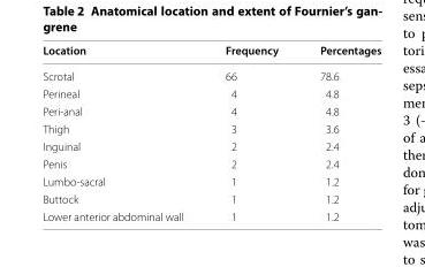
<table><thead><tr><td>Location</td><td>Frequency</td><td>Percentages</td></tr></thead><tbody><tr><td>Scrotal</td><td>66</td><td>78.6</td></tr><tr><td>Perineal</td><td>4</td><td>4.8</td></tr><tr><td>Peri-anal</td><td>4</td><td>4.8</td></tr><tr><td>Thigh</td><td>3</td><td>3.6</td></tr><tr><td>Inguinal</td><td>2</td><td>2.4</td></tr><tr><td>Penis</td><td>2</td><td>2.4</td></tr><tr><td>Lumbo-sacral</td><td>1</td><td>1.2</td></tr><tr><td>Buttock</td><td>1</td><td>1.2</td></tr><tr><td>Lower anterior abdominal wall</td><td>1</td><td>1.2</td></tr></tbody></table>